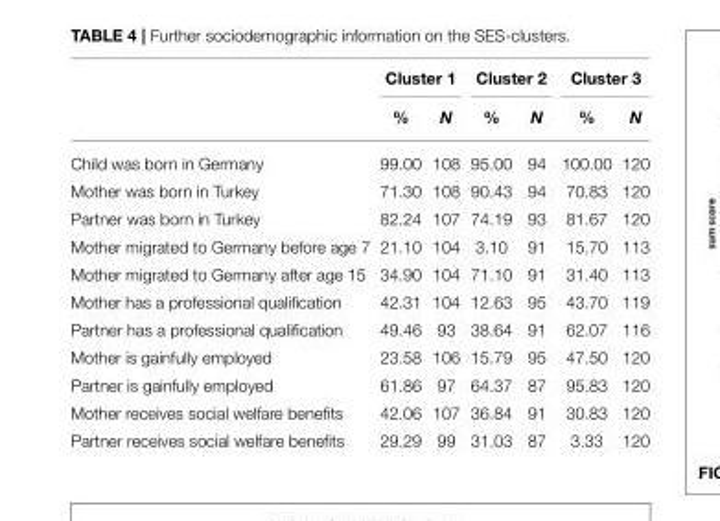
<table><thead><tr><td rowspan="2"></td><td colspan="2">Cluster 1</td><td colspan="2">Cluster 2</td><td colspan="2">Cluster 3</td></tr><tr><td>%</td><td>N</td><td>%</td><td>N</td><td>%</td><td>N</td></tr></thead><tbody><tr><td>Child was born in Germany</td><td>99.00</td><td>108</td><td>95.00</td><td>94</td><td>100.00</td><td>120</td></tr><tr><td>Mother was born in Turkey</td><td>71.30</td><td>108</td><td>90.43</td><td>94</td><td>70.83</td><td>120</td></tr><tr><td>Partner was born in Turkey</td><td>82.24</td><td>107</td><td>74.19</td><td>93</td><td>81.67</td><td>120</td></tr><tr><td>Mother migrated to Germany before age 7</td><td>21.10</td><td>104</td><td>3.10</td><td>91</td><td>15.70</td><td>113</td></tr><tr><td>Mother migrated to Germany after age 15</td><td>34.90</td><td>104</td><td>71.10</td><td>91</td><td>31.40</td><td>113</td></tr><tr><td>Mother has a professional qualification</td><td>42.31</td><td>104</td><td>12.63</td><td>95</td><td>43.70</td><td>119</td></tr><tr><td>Partner has a professional qualification</td><td>49.46</td><td>93</td><td>38.64</td><td>91</td><td>62.07</td><td>116</td></tr><tr><td>Mother is gainfully employed</td><td>23.58</td><td>106</td><td>15.79</td><td>95</td><td>47.50</td><td>120</td></tr><tr><td>Partner is gainfully employed</td><td>61.86</td><td>97</td><td>64.37</td><td>87</td><td>95.83</td><td>120</td></tr><tr><td>Mother receives social welfare benefits</td><td>42.06</td><td>107</td><td>36.84</td><td>91</td><td>30.83</td><td>120</td></tr><tr><td>Partner receives social welfare benefits</td><td>29.29</td><td>99</td><td>31.03</td><td>87</td><td>3.33</td><td>120</td></tr></tbody></table>